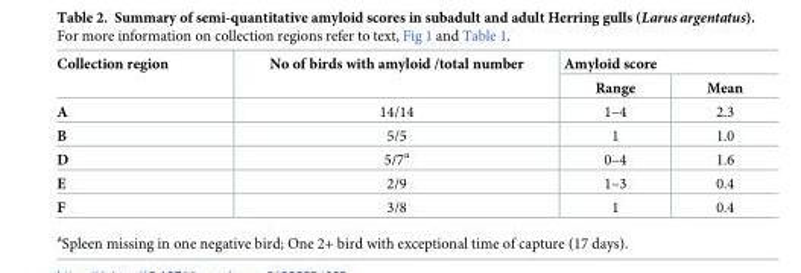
<table><thead><tr><td rowspan="2">Collection region</td><td rowspan="2">No of birds with amyloid /total number</td><td colspan="2">Amyloid score</td></tr><tr><td>Range</td><td>Mean</td></tr></thead><tbody><tr><td>A</td><td>14/14</td><td>1–4</td><td>2.3</td></tr><tr><td>B</td><td>5/5</td><td>1</td><td>1.0</td></tr><tr><td>D</td><td>5/7<sup>a</sup></td><td>0–4</td><td>1.6</td></tr><tr><td>E</td><td>2/9</td><td>1–3</td><td>0.4</td></tr><tr><td>F</td><td>3/8</td><td>1</td><td>0.4</td></tr></tbody></table>